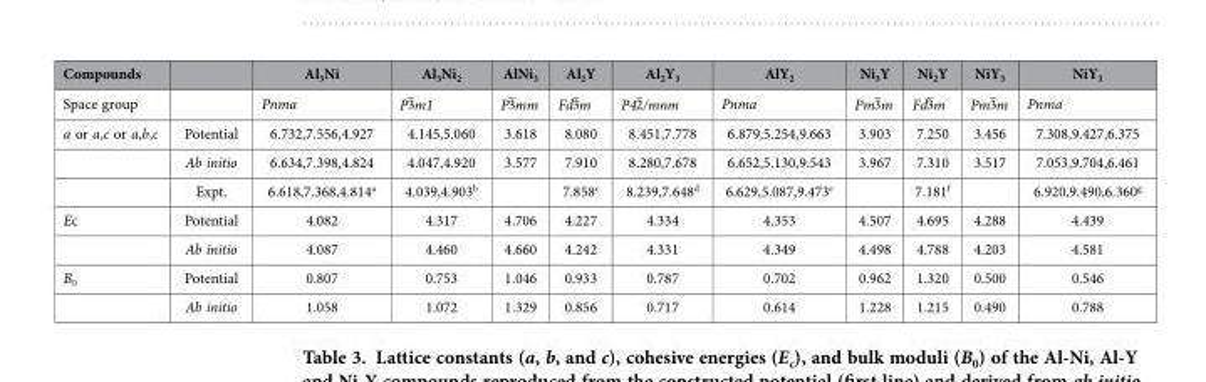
<table><thead><tr><td>Compounds</td><td></td><td>Al<sub>3</sub>Ni</td><td>Al<sub>3</sub>Ni<sub>2</sub></td><td>AlNi<sub>3</sub></td><td>Al<sub>2</sub>Y</td><td>Al<sub>2</sub>Y<sub>3</sub></td><td>AlY<sub>2</sub></td><td>Ni<sub>3</sub>Y</td><td>Ni<sub>2</sub>Y</td><td>NiY<sub>3</sub></td><td>NiY<sub>3</sub></td></tr></thead><tbody><tr><td>Space group</td><td></td><td>Pnma</td><td>P3m1</td><td>P3mm</td><td>Fd3m</td><td>P42/mnm</td><td>Pnma</td><td>Pm3m</td><td>Fd3m</td><td>Pm3m</td><td>Pnma</td></tr><tr><td rowspan="3">a or a,c or a,b,c</td><td>Potential</td><td>6.732,7.556,4.927</td><td>4.145,5.060</td><td>3.618</td><td>8.080</td><td>8.451,7.778</td><td>6.879,5.254,9.663</td><td>3.903</td><td>7.250</td><td>3.456</td><td>7.308,9.427,6.375</td></tr><tr><td>Ab initio</td><td>6.634,7.398,4.824</td><td>4.047,4.920</td><td>3.577</td><td>7.910</td><td>8.280,7.678</td><td>6.652,5.130,9.543</td><td>3.967</td><td>7.310</td><td>3.517</td><td>7.053,9.704,6.461</td></tr><tr><td>Expt.</td><td>6.618,7.368,4.814<sup>a</sup></td><td>4.039,4.903<sup>b</sup></td><td></td><td>7.858<sup>c</sup></td><td>8.239,7.648<sup>d</sup></td><td>6.629,5.087,9.473<sup>e</sup></td><td></td><td>7.181<sup>f</sup></td><td></td><td>6.920,9.490,6.360<sup>g</sup></td></tr><tr><td rowspan="2">Ec</td><td>Potential</td><td>4.082</td><td>4.317</td><td>4.706</td><td>4.227</td><td>4.334</td><td>4.353</td><td>4.507</td><td>4.695</td><td>4.288</td><td>4.439</td></tr><tr><td>Ab initio</td><td>4.087</td><td>4.460</td><td>4.660</td><td>4.242</td><td>4.331</td><td>4.349</td><td>4.498</td><td>4.788</td><td>4.203</td><td>4.581</td></tr><tr><td rowspan="2">B<sub>0</sub></td><td>Potential</td><td>0.807</td><td>0.753</td><td>1.046</td><td>0.933</td><td>0.787</td><td>0.702</td><td>0.962</td><td>1.320</td><td>0.500</td><td>0.546</td></tr><tr><td>Ab initio</td><td>1.058</td><td>1.072</td><td>1.329</td><td>0.856</td><td>0.717</td><td>0.614</td><td>1.228</td><td>1.215</td><td>0.490</td><td>0.788</td></tr></tbody></table>